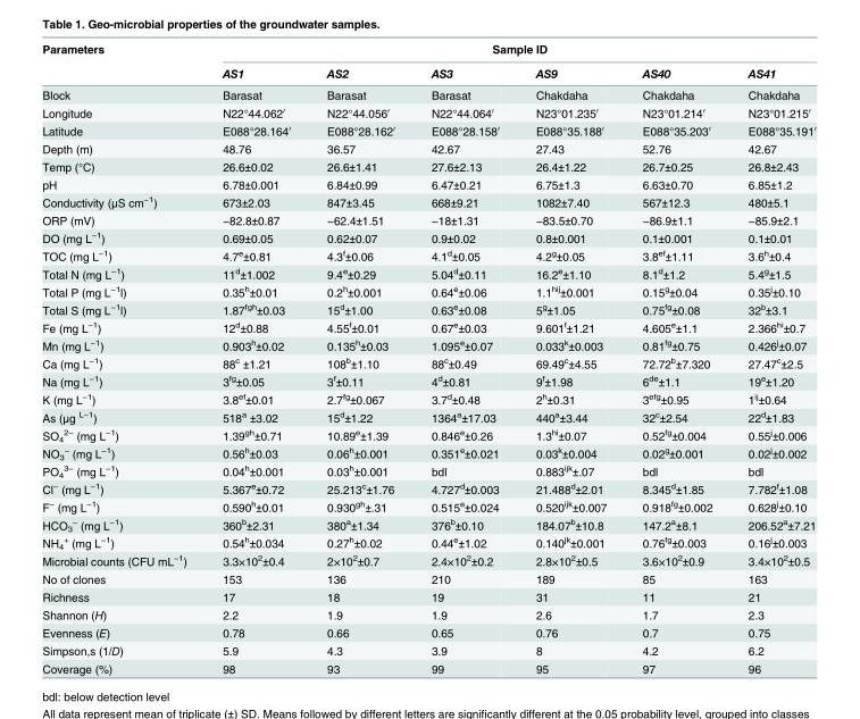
<table><thead><tr><td rowspan="2">Parameters</td><td colspan="6">Sample ID</td></tr><tr><td>AS1</td><td>AS2</td><td>AS3</td><td>AS9</td><td>AS40</td><td>AS41</td></tr></thead><tbody><tr><td>Block</td><td>Barasat</td><td>Barasat</td><td>Barasat</td><td>Chakdaha</td><td>Chakdaha</td><td>Chakdaha</td></tr><tr><td>Longitude</td><td>N22°44.062′</td><td>N22°44.056′</td><td>N22°44.064′</td><td>N23°01.235′</td><td>N23°01.214′</td><td>N23°01.215′</td></tr><tr><td>Latitude</td><td>E088°28.164′</td><td>E088°28.162′</td><td>E088°28.158′</td><td>E088°35.188′</td><td>E088°35.203′</td><td>E088°35.191′</td></tr><tr><td>Depth (m)</td><td>48.76</td><td>36.57</td><td>42.67</td><td>27.43</td><td>52.76</td><td>42.67</td></tr><tr><td>Temp (°C)</td><td>26.6±0.02</td><td>26.6±1.41</td><td>27.6±2.13</td><td>26.4±1.22</td><td>26.7±0.25</td><td>26.8±2.43</td></tr><tr><td>pH</td><td>6.78±0.001</td><td>6.84±0.99</td><td>6.47±0.21</td><td>6.75±1.3</td><td>6.63±0.70</td><td>6.85±1.2</td></tr><tr><td>Conductivity (μS cm<sup>−1</sup>)</td><td>673±2.03</td><td>847±3.45</td><td>668±9.21</td><td>1082±7.40</td><td>567±12.3</td><td>480±5.1</td></tr><tr><td>ORP (mV)</td><td>−82.8±0.87</td><td>−62.4±1.51</td><td>−18±1.31</td><td>−83.5±0.70</td><td>−86.9±1.1</td><td>−85.9±2.1</td></tr><tr><td>DO (mg L<sup>−1</sup>)</td><td>0.69±0.05</td><td>0.62±0.07</td><td>0.9±0.02</td><td>0.8±0.001</td><td>0.1±0.001</td><td>0.1±0.01</td></tr><tr><td>TOC (mg L<sup>−1</sup>)</td><td>4.7<sup>e</sup>±0.81</td><td>4.3<sup>f</sup>±0.06</td><td>4.1<sup>d</sup>±0.05</td><td>4.2<sup>g</sup>±0.05</td><td>3.8<sup>ef</sup>±1.11</td><td>3.6<sup>h</sup>±0.4</td></tr><tr><td>Total N (mg L<sup>−1</sup>)</td><td>11<sup>d</sup>±1.002</td><td>9.4<sup>e</sup>±0.29</td><td>5.04<sup>d</sup>±0.11</td><td>16.2<sup>e</sup>±1.10</td><td>8.1<sup>d</sup>±1.2</td><td>5.4<sup>g</sup>±1.5</td></tr><tr><td>Total P (mg L<sup>−1</sup>l)</td><td>0.35<sup>h</sup>±0.01</td><td>0.2<sup>h</sup>±0.001</td><td>0.64<sup>e</sup>±0.06</td><td>1.1<sup>hij</sup>±0.001</td><td>0.15<sup>g</sup>±0.04</td><td>0.35<sup>j</sup>±0.10</td></tr><tr><td>Total S (mg L<sup>−1</sup>l)</td><td>1.87<sup>fgh</sup>±0.03</td><td>15<sup>d</sup>±1.00</td><td>0.63<sup>e</sup>±0.08</td><td>5<sup>g</sup>±1.05</td><td>0.75<sup>fg</sup>±0.08</td><td>32<sup>b</sup>±3.1</td></tr><tr><td>Fe (mg L<sup>−1</sup>)</td><td>12<sup>d</sup>±0.88</td><td>4.55<sup>f</sup>±0.01</td><td>0.67<sup>e</sup>±0.03</td><td>9.601<sup>f</sup>±1.21</td><td>4.605<sup>e</sup>±1.1</td><td>2.366<sup>hi</sup>±0.7</td></tr><tr><td>Mn (mg L<sup>−1</sup>)</td><td>0.903<sup>h</sup>±0.02</td><td>0.135<sup>h</sup>±0.03</td><td>1.095<sup>e</sup>±0.07</td><td>0.033<sup>k</sup>±0.003</td><td>0.81<sup>fg</sup>±0.75</td><td>0.426<sup>j</sup>±0.07</td></tr><tr><td>Ca (mg L<sup>−1</sup>)</td><td>88<sup>c</sup> ±1.21</td><td>108<sup>b</sup>±1.10</td><td>88<sup>c</sup>±0.49</td><td>69.49<sup>c</sup>±4.55</td><td>72.72<sup>b</sup>±7.320</td><td>27.47<sup>c</sup>±2.5</td></tr><tr><td>Na (mg L<sup>−1</sup>)</td><td>3<sup>fg</sup>±0.05</td><td>3<sup>f</sup>±0.11</td><td>4<sup>d</sup>±0.81</td><td>9<sup>f</sup>±1.98</td><td>6<sup>de</sup>±1.1</td><td>19<sup>e</sup>±1.20</td></tr><tr><td>K (mg L<sup>−1</sup>)</td><td>3.8<sup>ef</sup>±0.01</td><td>2.7<sup>fg</sup>±0.067</td><td>3.7<sup>d</sup>±0.48</td><td>2<sup>h</sup>±0.31</td><td>3<sup>efg</sup>±0.95</td><td>1<sup>ij</sup>±0.64</td></tr><tr><td>As (μg <sup>L−1</sup>)</td><td>518<sup>a</sup> ±3.02</td><td>15<sup>d</sup>±1.22</td><td>1364<sup>a</sup>±17.03</td><td>440<sup>a</sup>±3.44</td><td>32<sup>c</sup>±2.54</td><td>22<sup>d</sup>±1.83</td></tr><tr><td>SO<sub>4</sub> <sup>2−</sup> (mg L<sup>−1</sup>)</td><td>1.39<sup>gh</sup>±0.71</td><td>10.89<sup>e</sup>±1.39</td><td>0.846<sup>e</sup>±0.26</td><td>1.3<sup>hi</sup>±0.07</td><td>0.52<sup>fg</sup>±0.004</td><td>0.55<sup>j</sup>±0.006</td></tr><tr><td>NO<sub>3</sub> <sup>−</sup> (mg L<sup>−1</sup>)</td><td>0.56<sup>h</sup>±0.03</td><td>0.06<sup>h</sup>±0.001</td><td>0.351<sup>e</sup>±0.021</td><td>0.03<sup>k</sup>±0.004</td><td>0.02<sup>g</sup>±0.001</td><td>0.02<sup>j</sup>±0.002</td></tr><tr><td>PO<sub>4</sub> <sup>3−</sup> (mg L<sup>−1</sup>)</td><td>0.04<sup>h</sup>±0.001</td><td>0.03<sup>h</sup>±0.001</td><td>bdl</td><td>0.883<sup>ijk</sup>±.07</td><td>bdl</td><td>bdl</td></tr><tr><td>Cl<sup>−</sup> (mg L<sup>−1</sup>)</td><td>5.367<sup>e</sup>±0.72</td><td>25.213<sup>c</sup>±1.76</td><td>4.727<sup>d</sup>±0.003</td><td>21.488<sup>d</sup>±2.01</td><td>8.345<sup>d</sup>±1.85</td><td>7.782<sup>f</sup>±1.08</td></tr><tr><td>F<sup>−</sup> (mg L<sup>−1</sup>)</td><td>0.590<sup>h</sup>±0.01</td><td>0.930<sup>gh</sup>±.31</td><td>0.515<sup>e</sup>±0.024</td><td>0.520<sup>ijk</sup>±0.007</td><td>0.918<sup>fg</sup>±0.002</td><td>0.628<sup>j</sup>±0.10</td></tr><tr><td>HCO<sub>3</sub> <sup>−</sup> (mg L<sup>−1</sup>)</td><td>360<sup>b</sup>±2.31</td><td>380<sup>a</sup>±1.34</td><td>376<sup>b</sup>±0.10</td><td>184.07<sup>b</sup>±10.8</td><td>147.2<sup>a</sup>±8.1</td><td>206.52<sup>a</sup>±7.21</td></tr><tr><td>NH<sub>4</sub> <sup>+</sup> (mg L<sup>−1</sup>)</td><td>0.54<sup>h</sup>±0.034</td><td>0.27<sup>h</sup>±0.02</td><td>0.44<sup>e</sup>±1.02</td><td>0.140<sup>jk</sup>±0.001</td><td>0.76<sup>fg</sup>±0.003</td><td>0.16<sup>j</sup>±0.003</td></tr><tr><td>Microbial counts (CFU mL<sup>−1</sup>)</td><td>3.3×10<sup>2</sup>±0.4</td><td>2×10<sup>2</sup>±0.7</td><td>2.4×10<sup>2</sup>±0.2</td><td>2.8×10<sup>2</sup>±0.5</td><td>3.6×10<sup>2</sup>±0.9</td><td>3.4×10<sup>2</sup>±0.5</td></tr><tr><td>No of clones</td><td>153</td><td>136</td><td>210</td><td>189</td><td>85</td><td>163</td></tr><tr><td>Richness</td><td>17</td><td>18</td><td>19</td><td>31</td><td>11</td><td>21</td></tr><tr><td>Shannon (H)</td><td>2.2</td><td>1.9</td><td>1.9</td><td>2.6</td><td>1.7</td><td>2.3</td></tr><tr><td>Evenness (E)</td><td>0.78</td><td>0.66</td><td>0.65</td><td>0.76</td><td>0.7</td><td>0.75</td></tr><tr><td>Simpson,s (1/D)</td><td>5.9</td><td>4.3</td><td>3.9</td><td>8</td><td>4.2</td><td>6.2</td></tr><tr><td>Coverage (%)</td><td>98</td><td>93</td><td>99</td><td>95</td><td>97</td><td>96</td></tr></tbody></table>